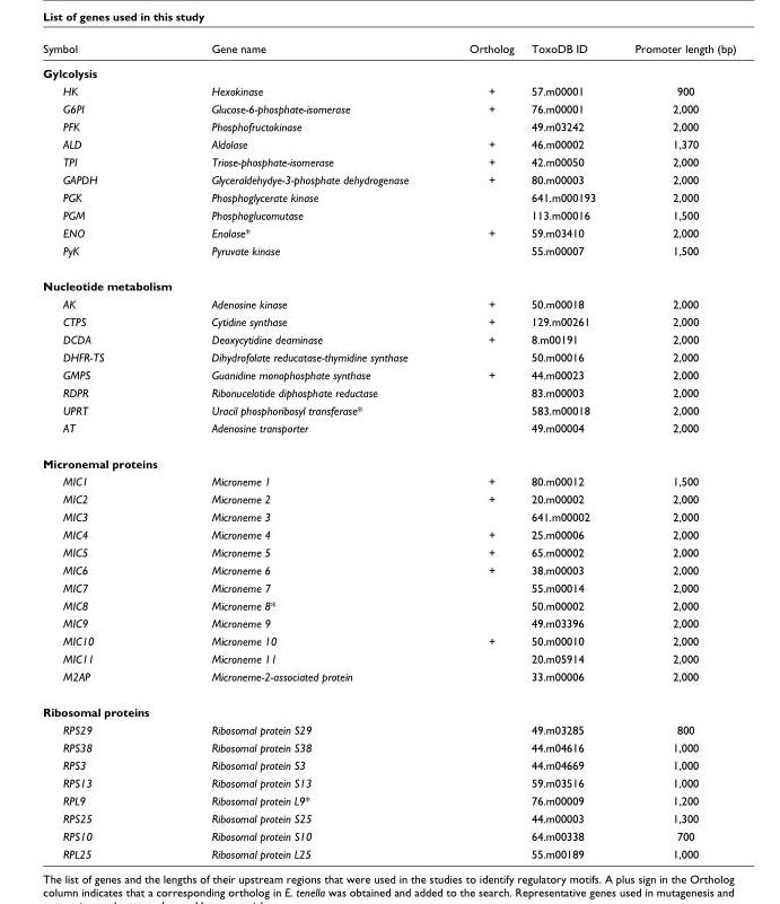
<table><thead><tr><td>Symbol</td><td>Gene name</td><td>Ortholog</td><td>ToxoDB ID</td><td>Promoter length (bp)</td></tr></thead><tbody><tr><td colspan="5">Gylcolysis</td></tr><tr><td>HK</td><td>Hexokinase</td><td>+</td><td>57.m00001</td><td>900</td></tr><tr><td>G6PI</td><td>Glucose-6-phosphate-isomerase</td><td>+</td><td>76.m00001</td><td>2,000</td></tr><tr><td>PFK</td><td>Phosphofructokinase</td><td></td><td>49.m03242</td><td>2,000</td></tr><tr><td>ALD</td><td>Aldolase</td><td>+</td><td>46.m00002</td><td>1,370</td></tr><tr><td>TPI</td><td>Triose-phosphate-isomerase</td><td>+</td><td>42.m00050</td><td>2,000</td></tr><tr><td>GAPDH</td><td>Glyceraldehydye-3-phosphate dehydrogenase</td><td>+</td><td>80.m00003</td><td>2,000</td></tr><tr><td>PGK</td><td>Phosphoglycerate kinase</td><td></td><td>641.m000193</td><td>2,000</td></tr><tr><td>PGM</td><td>Phosphoglucomutase</td><td></td><td>113.m00016</td><td>1,500</td></tr><tr><td>ENO</td><td>Enolase*</td><td>+</td><td>59.m03410</td><td>2,000</td></tr><tr><td>PyK</td><td>Pyruvate kinase</td><td></td><td>55.m00007</td><td>1,500</td></tr><tr><td colspan="5">Nucleotide metabolism</td></tr><tr><td>AK</td><td>Adenosine kinase</td><td>+</td><td>50.m00018</td><td>2,000</td></tr><tr><td>CTPS</td><td>Cytidine synthase</td><td>+</td><td>129.m00261</td><td>2,000</td></tr><tr><td>DCDA</td><td>Deoxycytidine deaminase</td><td>+</td><td>8.m00191</td><td>2,000</td></tr><tr><td>DHFR-TS</td><td>Dihydrofolate reducatase-thymidine synthase</td><td></td><td>50.m00016</td><td>2,000</td></tr><tr><td>GMPS</td><td>Guanidine monophosphate synthase</td><td>+</td><td>44.m00023</td><td>2,000</td></tr><tr><td>RDPR</td><td>Ribonucelotide diphosphate reductase</td><td></td><td>83.m00003</td><td>2,000</td></tr><tr><td>UPRT</td><td>Uracil phosphoribosyl transferase*</td><td></td><td>583.m00018</td><td>2,000</td></tr><tr><td>AT</td><td>Adenosine transporter</td><td></td><td>49.m00004</td><td>2,000</td></tr><tr><td colspan="5">Micronemal proteins</td></tr><tr><td>MIC1</td><td>Microneme 1</td><td>+</td><td>80.m00012</td><td>1,500</td></tr><tr><td>MIC2</td><td>Microneme 2</td><td>+</td><td>20.m00002</td><td>2,000</td></tr><tr><td>MIC3</td><td>Microneme 3</td><td></td><td>641.m00002</td><td>2,000</td></tr><tr><td>MIC4</td><td>Microneme 4</td><td>+</td><td>25.m00006</td><td>2,000</td></tr><tr><td>MIC5</td><td>Microneme 5</td><td>+</td><td>65.m00002</td><td>2,000</td></tr><tr><td>MIC6</td><td>Microneme 6</td><td>+</td><td>38.m00003</td><td>2,000</td></tr><tr><td>MIC7</td><td>Microneme 7</td><td></td><td>55.m00014</td><td>2,000</td></tr><tr><td>MIC8</td><td>Microneme 8*</td><td></td><td>50.m00002</td><td>2,000</td></tr><tr><td>MIC9</td><td>Microneme 9</td><td></td><td>49.m03396</td><td>2,000</td></tr><tr><td>MIC10</td><td>Microneme 10</td><td>+</td><td>50.m00010</td><td>2,000</td></tr><tr><td>MIC11</td><td>Microneme 11</td><td></td><td>20.m05914</td><td>2,000</td></tr><tr><td>M2AP</td><td>Microneme-2-associated protein</td><td></td><td>33.m00006</td><td>2,000</td></tr><tr><td colspan="5">Ribosomal proteins</td></tr><tr><td>RPS29</td><td>Ribosomal protein S29</td><td></td><td>49.m03285</td><td>800</td></tr><tr><td>RPS38</td><td>Ribosomal protein S38</td><td></td><td>44.m04616</td><td>1,000</td></tr><tr><td>RPS3</td><td>Ribosomal protein S3</td><td></td><td>44.m04669</td><td>1,000</td></tr><tr><td>RPS13</td><td>Ribosomal protein S13</td><td></td><td>59.m03516</td><td>1,000</td></tr><tr><td>RPL9</td><td>Ribosomal protein L9*</td><td></td><td>76.m00009</td><td>1,200</td></tr><tr><td>RPS25</td><td>Ribosomal protein S25</td><td></td><td>44.m00003</td><td>1,300</td></tr><tr><td>RPS10</td><td>Ribosomal protein S10</td><td></td><td>64.m00338</td><td>700</td></tr><tr><td>RPL25</td><td>Ribosomal protein L25</td><td></td><td>55.m00189</td><td>1,000</td></tr></tbody></table>